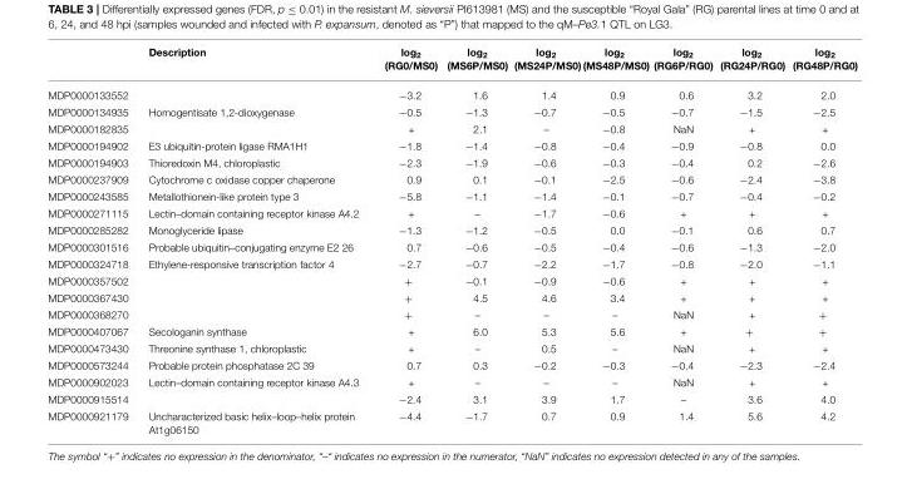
<table><thead><tr><td></td><td>Description</td><td>log<sub>2</sub> (RG0/MS0)</td><td>log<sub>2</sub> (MS6P/MS0)</td><td>log<sub>2</sub> (MS24P/MS0)</td><td>log<sub>2</sub> (MS48P/MS0)</td><td>log<sub>2</sub> (RG6P/RG0)</td><td>log<sub>2</sub> (RG24P/RG0)</td><td>log<sub>2</sub> (RG48P/RG0)</td></tr></thead><tbody><tr><td>MDP0000133552</td><td></td><td>−3.2</td><td>1.6</td><td>1.4</td><td>0.9</td><td>0.6</td><td>3.2</td><td>2.0</td></tr><tr><td>MDP0000134935</td><td>Homogentisate 1,2-dioxygenase</td><td>−0.5</td><td>−1.3</td><td>−0.7</td><td>−0.5</td><td>−0.7</td><td>−1.5</td><td>−2.5</td></tr><tr><td>MDP0000182835</td><td></td><td>+</td><td>2.1</td><td>–</td><td>−0.8</td><td>NaN</td><td>+</td><td>+</td></tr><tr><td>MDP0000194902</td><td>E3 ubiquitin-protein ligase RMA1H1</td><td>−1.8</td><td>−1.4</td><td>−0.8</td><td>−0.4</td><td>−0.9</td><td>−0.8</td><td>0.0</td></tr><tr><td>MDP0000194903</td><td>Thioredoxin M4, chloroplastic</td><td>−2.3</td><td>−1.9</td><td>−0.6</td><td>−0.3</td><td>−0.4</td><td>0.2</td><td>−2.6</td></tr><tr><td>MDP0000237909</td><td>Cytochrome c oxidase copper chaperone</td><td>0.9</td><td>0.1</td><td>−0.1</td><td>−2.5</td><td>−0.6</td><td>−2.4</td><td>−3.8</td></tr><tr><td>MDP0000243585</td><td>Metallothionein-like protein type 3</td><td>−5.8</td><td>−1.1</td><td>−1.4</td><td>−0.1</td><td>−0.7</td><td>−0.4</td><td>−0.2</td></tr><tr><td>MDP0000271115</td><td>Lectin–domain containing receptor kinase A4.2</td><td>+</td><td>–</td><td>−1.7</td><td>−0.6</td><td>+</td><td>+</td><td>+</td></tr><tr><td>MDP0000285282</td><td>Monoglyceride lipase</td><td>−1.3</td><td>−1.2</td><td>−0.5</td><td>0.0</td><td>−0.1</td><td>0.6</td><td>0.7</td></tr><tr><td>MDP0000301516</td><td>Probable ubiquitin–conjugating enzyme E2 26</td><td>0.7</td><td>−0.6</td><td>−0.5</td><td>−0.4</td><td>−0.6</td><td>−1.3</td><td>−2.0</td></tr><tr><td>MDP0000324718</td><td>Ethylene-responsive transcription factor 4</td><td>−2.7</td><td>−0.7</td><td>−2.2</td><td>−1.7</td><td>−0.8</td><td>−2.0</td><td>−1.1</td></tr><tr><td>MDP0000357502</td><td></td><td>+</td><td>−0.1</td><td>−0.9</td><td>−0.6</td><td>+</td><td>+</td><td>+</td></tr><tr><td>MDP0000367430</td><td></td><td>+</td><td>4.5</td><td>4.6</td><td>3.4</td><td>+</td><td>+</td><td>+</td></tr><tr><td>MDP0000368270</td><td></td><td>+</td><td>–</td><td>–</td><td>–</td><td>NaN</td><td>+</td><td>+</td></tr><tr><td>MDP0000407067</td><td>Secologanin synthase</td><td>+</td><td>6.0</td><td>5.3</td><td>5.6</td><td>+</td><td>+</td><td>+</td></tr><tr><td>MDP0000473430</td><td>Threonine synthase 1, chloroplastic</td><td>+</td><td>–</td><td>0.5</td><td>–</td><td>NaN</td><td>+</td><td>+</td></tr><tr><td>MDP0000573244</td><td>Probable protein phosphatase 2C 39</td><td>0.7</td><td>0.3</td><td>−0.2</td><td>−0.3</td><td>−0.4</td><td>−2.3</td><td>−2.4</td></tr><tr><td>MDP0000902023</td><td>Lectin–domain containing receptor kinase A4.3</td><td>+</td><td>–</td><td>–</td><td>–</td><td>NaN</td><td>+</td><td>+</td></tr><tr><td>MDP0000915514</td><td></td><td>−2.4</td><td>3.1</td><td>3.9</td><td>1.7</td><td>–</td><td>3.6</td><td>4.0</td></tr><tr><td>MDP0000921179</td><td>Uncharacterized basic helix–loop–helix protein At1g06150</td><td>−4.4</td><td>−1.7</td><td>0.7</td><td>0.9</td><td>1.4</td><td>5.6</td><td>4.2</td></tr></tbody></table>